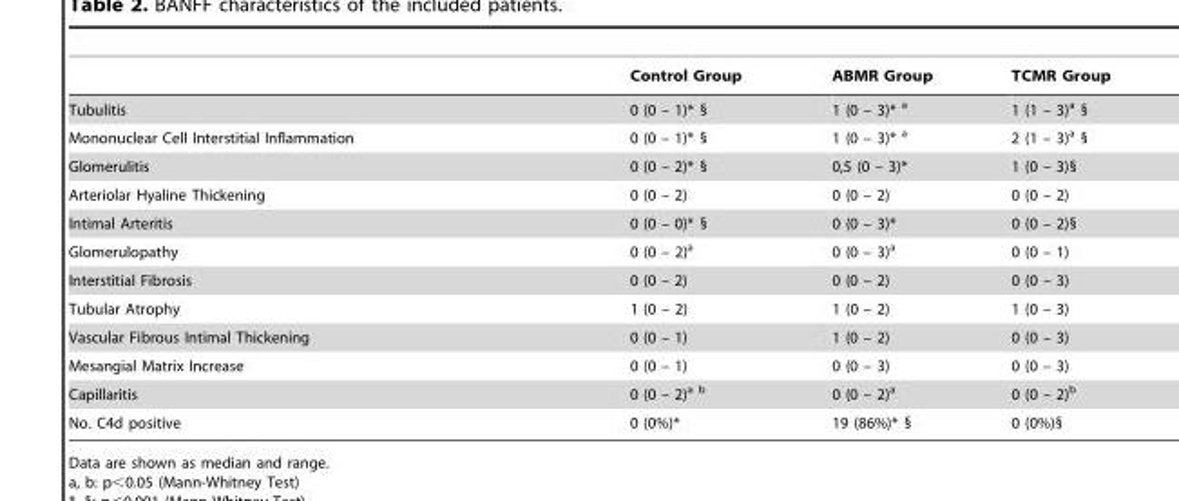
<table><thead><tr><td></td><td>Control Group</td><td>ABMR Group</td><td>TCMR Group</td></tr></thead><tbody><tr><td>Tubulitis</td><td>0 (0 – 1)* §</td><td>1 (0 – 3)* <sup>a</sup></td><td>1 (1 – 3)<sup>a</sup> §</td></tr><tr><td>Mononuclear Cell Interstitial Inflammation</td><td>0 (0 – 1)* §</td><td>1 (0 – 3)* <sup>a</sup></td><td>2 (1 – 3)<sup>a</sup> §</td></tr><tr><td>Glomerulitis</td><td>0 (0 – 2)* §</td><td>0,5 (0 – 3)*</td><td>1 (0 – 3)§</td></tr><tr><td>Arteriolar Hyaline Thickening</td><td>0 (0 – 2)</td><td>0 (0 – 2)</td><td>0 (0 – 2)</td></tr><tr><td>Intimal Arteritis</td><td>0 (0 – 0)* §</td><td>0 (0 – 3)*</td><td>0 (0 – 2)§</td></tr><tr><td>Glomerulopathy</td><td>0 (0 – 2)<sup>a</sup></td><td>0 (0 – 3)<sup>a</sup></td><td>0 (0 – 1)</td></tr><tr><td>Interstitial Fibrosis</td><td>0 (0 – 2)</td><td>0 (0 – 2)</td><td>0 (0 – 3)</td></tr><tr><td>Tubular Atrophy</td><td>1 (0 – 2)</td><td>1 (0 – 2)</td><td>1 (0 – 3)</td></tr><tr><td>Vascular Fibrous Intimal Thickening</td><td>0 (0 – 1)</td><td>1 (0 – 2)</td><td>0 (0 – 3)</td></tr><tr><td>Mesangial Matrix Increase</td><td>0 (0 – 1)</td><td>0 (0 – 3)</td><td>0 (0 – 3)</td></tr><tr><td>Capillaritis</td><td>0 (0 – 2)<sup>a b</sup></td><td>0 (0 – 2)<sup>a</sup></td><td>0 (0 – 2)<sup>b</sup></td></tr><tr><td>No. C4d positive</td><td>0 (0%)*</td><td>19 (86%)* §</td><td>0 (0%)§</td></tr></tbody></table>